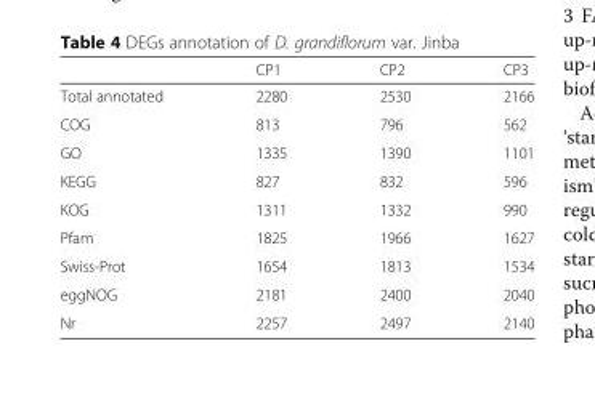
<table><thead><tr><td></td><td>CP1</td><td>CP2</td><td>CP3</td></tr></thead><tbody><tr><td>Total annotated</td><td>2280</td><td>2530</td><td>2166</td></tr><tr><td>COG</td><td>813</td><td>796</td><td>562</td></tr><tr><td>GO</td><td>1335</td><td>1390</td><td>1101</td></tr><tr><td>KEGG</td><td>827</td><td>832</td><td>596</td></tr><tr><td>KOG</td><td>1311</td><td>1332</td><td>990</td></tr><tr><td>Pfam</td><td>1825</td><td>1966</td><td>1627</td></tr><tr><td>Swiss-Prot</td><td>1654</td><td>1813</td><td>1534</td></tr><tr><td>eggNOG</td><td>2181</td><td>2400</td><td>2040</td></tr><tr><td>Nr</td><td>2257</td><td>2497</td><td>2140</td></tr></tbody></table>